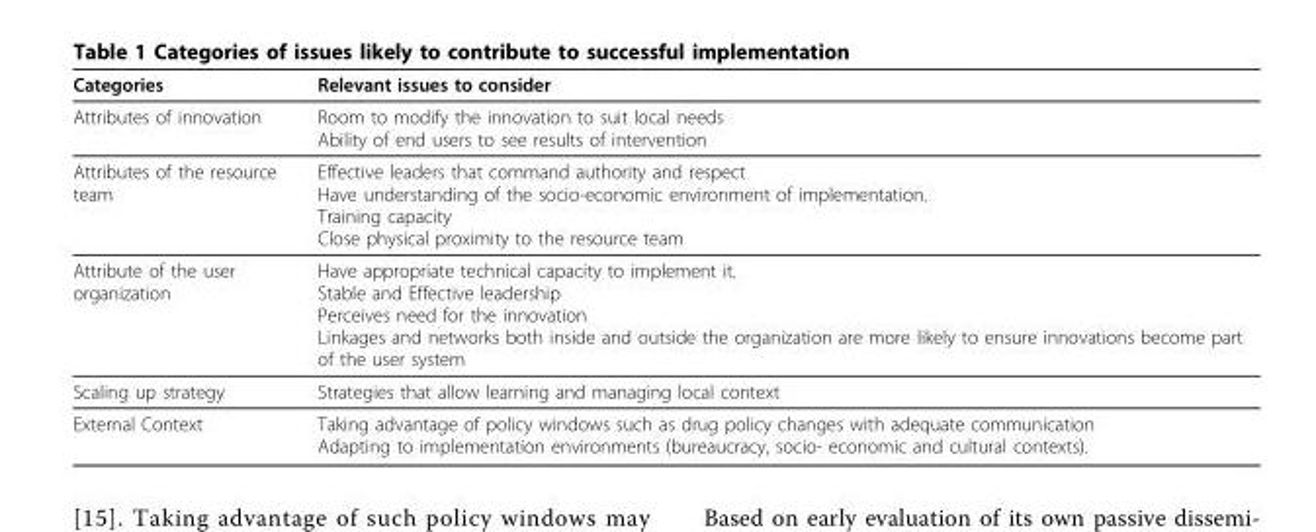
<table><thead><tr><td>Categories</td><td>Relevant issues to consider</td></tr></thead><tbody><tr><td>Attributes of innovation</td><td>Room to modify the innovation to suit local needs Ability of end users to see results of intervention</td></tr><tr><td>Attributes of the resource team</td><td>Effective leaders that command authority and respect Have understanding of the socio-economic environment of implementation. Training capacity Close physical proximity to the resource team</td></tr><tr><td>Attribute of the user organization</td><td>Have appropriate technical capacity to implement it. Stable and Effective leadership Perceives need for the innovation Linkages and networks both inside and outside the organization are more likely to ensure innovations become part of the user system</td></tr><tr><td>Scaling up strategy</td><td>Strategies that allow learning and managing local context</td></tr><tr><td>External Context</td><td>Taking advantage of policy windows such as drug policy changes with adequate communication Adapting to implementation environments (bureaucracy, socio- economic and cultural contexts).</td></tr></tbody></table>